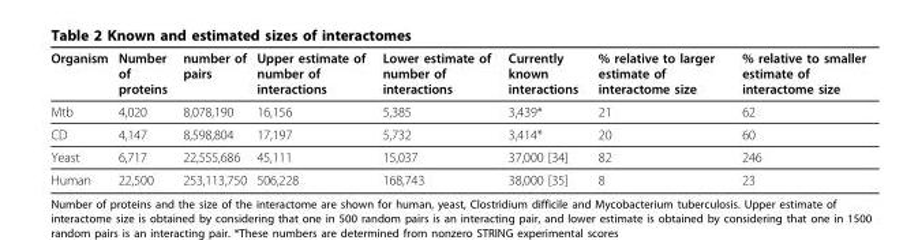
<table><thead><tr><td>Organism</td><td>Number of proteins</td><td>number of pairs</td><td>Upper estimate of number of interactions</td><td>Lower estimate of number of interactions</td><td>Currently known interactions</td><td>% relative to larger estimate of interactome size</td><td>% relative to smaller estimate of interactome size</td></tr></thead><tbody><tr><td>Mtb</td><td>4,020</td><td>8,078,190</td><td>16,156</td><td>5,385</td><td>3,439*</td><td>21</td><td>62</td></tr><tr><td>CD</td><td>4,147</td><td>8,598,804</td><td>17,197</td><td>5,732</td><td>3,414*</td><td>20</td><td>60</td></tr><tr><td>Yeast</td><td>6,717</td><td>22,555,686</td><td>45,111</td><td>15,037</td><td>37,000 [34]</td><td>82</td><td>246</td></tr><tr><td>Human</td><td>22,500</td><td>253,113,750</td><td>506,228</td><td>168,743</td><td>38,000 [35]</td><td>8</td><td>23</td></tr></tbody></table>